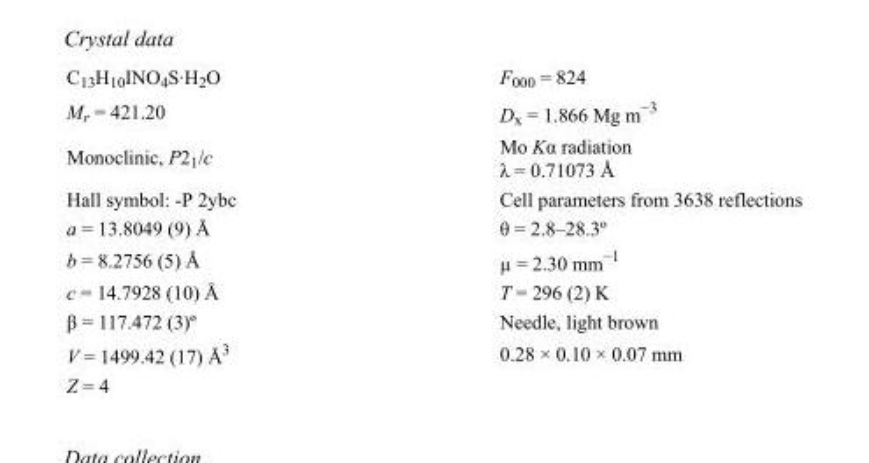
<table><tbody><tr><td>C<sub>13</sub>H<sub>10</sub>INO<sub>4</sub>S·H<sub>2</sub>O</td><td>F000 = 824</td></tr><tr><td>M<sub>r</sub> = 421.20</td><td>D<sub>x</sub> = 1.866 Mg m<sup>−3</sup></td></tr><tr><td>Monoclinic, P2<sub>1</sub>/c</td><td>Mo Kα radiation λ = 0.71073 Å</td></tr><tr><td>Hall symbol: -P 2ybc</td><td>Cell parameters from 3638 reflections</td></tr><tr><td>a = 13.8049 (9) Å</td><td>θ = 2.8–28.3º</td></tr><tr><td>b = 8.2756 (5) Å</td><td>µ = 2.30 mm<sup>−1</sup></td></tr><tr><td>c = 14.7928 (10) Å</td><td>T = 296 (2) K</td></tr><tr><td>β = 117.472 (3)º</td><td>Needle, light brown</td></tr><tr><td>V = 1499.42 (17) Å<sup>3</sup></td><td>0.28 × 0.10 × 0.07 mm</td></tr><tr><td>Z = 4</td><td></td></tr></tbody></table>